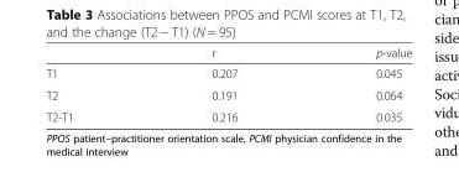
<table><thead><tr><td></td><td>r</td><td>p-value</td></tr></thead><tbody><tr><td>T1</td><td>0.207</td><td>0.045</td></tr><tr><td>T2</td><td>0.191</td><td>0.064</td></tr><tr><td>T2-T1</td><td>0.216</td><td>0.035</td></tr></tbody></table>